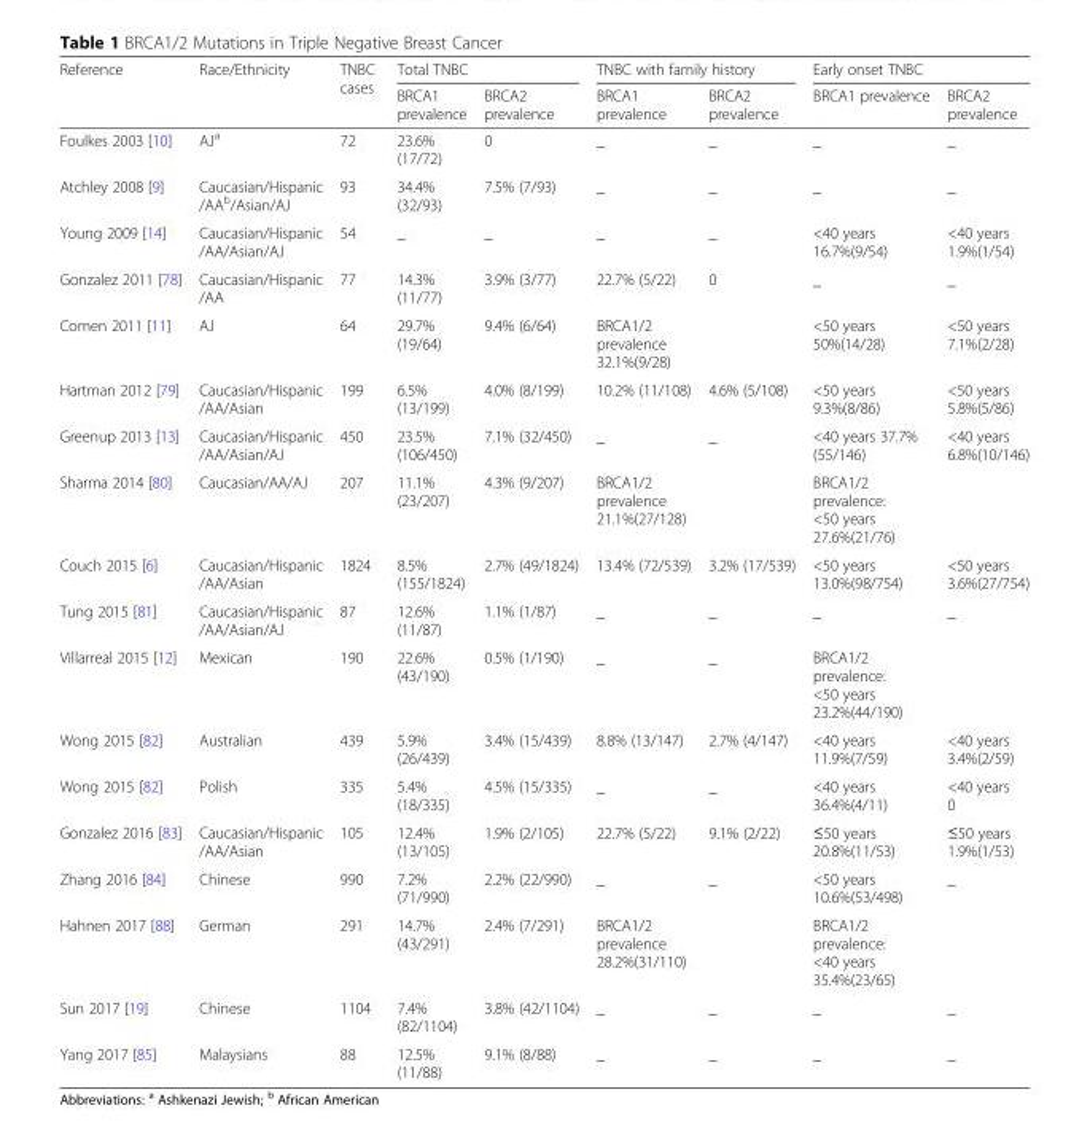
<table><thead><tr><td rowspan="2">Reference</td><td rowspan="2">Race/Ethnicity</td><td rowspan="2">TNBC cases</td><td colspan="2">Total TNBC</td><td colspan="2">TNBC with family history</td><td colspan="2">Early onset TNBC</td></tr><tr><td>BRCA1 prevalence</td><td>BRCA2 prevalence</td><td>BRCA1 prevalence</td><td>BRCA2 prevalence</td><td>BRCA1 prevalence</td><td>BRCA2 prevalence</td></tr></thead><tbody><tr><td>Foulkes 2003 [10]</td><td>AJ<sup>a</sup></td><td>72</td><td>23.6% (17/72)</td><td>0</td><td>_</td><td>_</td><td>_</td><td>_</td></tr><tr><td>Atchley 2008 [9]</td><td>Caucasian/Hispanic /AA<sup>b</sup>/Asian/AJ</td><td>93</td><td>34.4% (32/93)</td><td>7.5% (7/93)</td><td>_</td><td>_</td><td>_</td><td>_</td></tr><tr><td>Young 2009 [14]</td><td>Caucasian/Hispanic /AA/Asian/AJ</td><td>54</td><td>_</td><td>_</td><td>_</td><td>_</td><td>&lt;40 years 16.7%(9/54)</td><td>&lt;40 years 1.9%(1/54)</td></tr><tr><td>Gonzalez 2011 [78]</td><td>Caucasian/Hispanic /AA</td><td>77</td><td>14.3% (11/77)</td><td>3.9% (3/77)</td><td>22.7% (5/22)</td><td>0</td><td>_</td><td>_</td></tr><tr><td>Comen 2011 [11]</td><td>AJ</td><td>64</td><td>29.7% (19/64)</td><td>9.4% (6/64)</td><td colspan="2">BRCA1/2 prevalence 32.1%(9/28)</td><td>&lt;50 years 50%(14/28)</td><td>&lt;50 years 7.1%(2/28)</td></tr><tr><td>Hartman 2012 [79]</td><td>Caucasian/Hispanic /AA/Asian</td><td>199</td><td>6.5% (13/199)</td><td>4.0% (8/199)</td><td>10.2% (11/108)</td><td>4.6% (5/108)</td><td>&lt;50 years 9.3%(8/86)</td><td>&lt;50 years 5.8%(5/86)</td></tr><tr><td>Greenup 2013 [13]</td><td>Caucasian/Hispanic /AA/Asian/AJ</td><td>450</td><td>23.5% (106/450)</td><td>7.1% (32/450)</td><td>_</td><td>_</td><td>&lt;40 years 37.7% (55/146)</td><td>&lt;40 years 6.8%(10/146)</td></tr><tr><td>Sharma 2014 [80]</td><td>Caucasian/AA/AJ</td><td>207</td><td>11.1% (23/207)</td><td>4.3% (9/207)</td><td colspan="2">BRCA1/2 prevalence 21.1%(27/128)</td><td colspan="2">BRCA1/2 prevalence: &lt;50 years 27.6%(21/76)</td></tr><tr><td>Couch 2015 [6]</td><td>Caucasian/Hispanic /AA/Asian</td><td>1824</td><td>8.5% (155/1824)</td><td>2.7% (49/1824)</td><td>13.4% (72/539)</td><td>3.2% (17/539)</td><td>&lt;50 years 13.0%(98/754)</td><td>&lt;50 years 3.6%(27/754)</td></tr><tr><td>Tung 2015 [81]</td><td>Caucasian/Hispanic /AA/Asian/AJ</td><td>87</td><td>12.6% (11/87)</td><td>1.1% (1/87)</td><td>_</td><td>_</td><td>_</td><td>_</td></tr><tr><td>Villarreal 2015 [12]</td><td>Mexican</td><td>190</td><td>22.6% (43/190)</td><td>0.5% (1/190)</td><td>_</td><td>_</td><td colspan="2">BRCA1/2 prevalence: &lt;50 years 23.2%(44/190)</td></tr><tr><td>Wong 2015 [82]</td><td>Australian</td><td>439</td><td>5.9% (26/439)</td><td>3.4% (15/439)</td><td>8.8% (13/147)</td><td>2.7% (4/147)</td><td>&lt;40 years 11.9%(7/59)</td><td>&lt;40 years 3.4%(2/59)</td></tr><tr><td>Wong 2015 [82]</td><td>Polish</td><td>335</td><td>5.4% (18/335)</td><td>4.5% (15/335)</td><td>_</td><td>_</td><td>&lt;40 years 36.4%(4/11)</td><td>&lt;40 years 0</td></tr><tr><td>Gonzalez 2016 [83]</td><td>Caucasian/Hispanic /AA/Asian</td><td>105</td><td>12.4% (13/105)</td><td>1.9% (2/105)</td><td>22.7% (5/22)</td><td>9.1% (2/22)</td><td>≤50 years 20.8%(11/53)</td><td>≤50 years 1.9%(1/53)</td></tr><tr><td>Zhang 2016 [84]</td><td>Chinese</td><td>990</td><td>7.2% (71/990)</td><td>2.2% (22/990)</td><td>_</td><td>_</td><td>&lt;50 years 10.6%(53/498)</td><td>_</td></tr><tr><td>Hahnen 2017 [88]</td><td>German</td><td>291</td><td>14.7% (43/291)</td><td>2.4% (7/291)</td><td colspan="2">BRCA1/2 prevalence 28.2%(31/110)</td><td colspan="2">BRCA1/2 prevalence: &lt;40 years 35.4%(23/65)</td></tr><tr><td>Sun 2017 [19]</td><td>Chinese</td><td>1104</td><td>7.4% (82/1104)</td><td>3.8% (42/1104)</td><td>_</td><td>_</td><td>_</td><td>_</td></tr><tr><td>Yang 2017 [85]</td><td>Malaysians</td><td>88</td><td>12.5% (11/88)</td><td>9.1% (8/88)</td><td>_</td><td>_</td><td>_</td><td>_</td></tr></tbody></table>